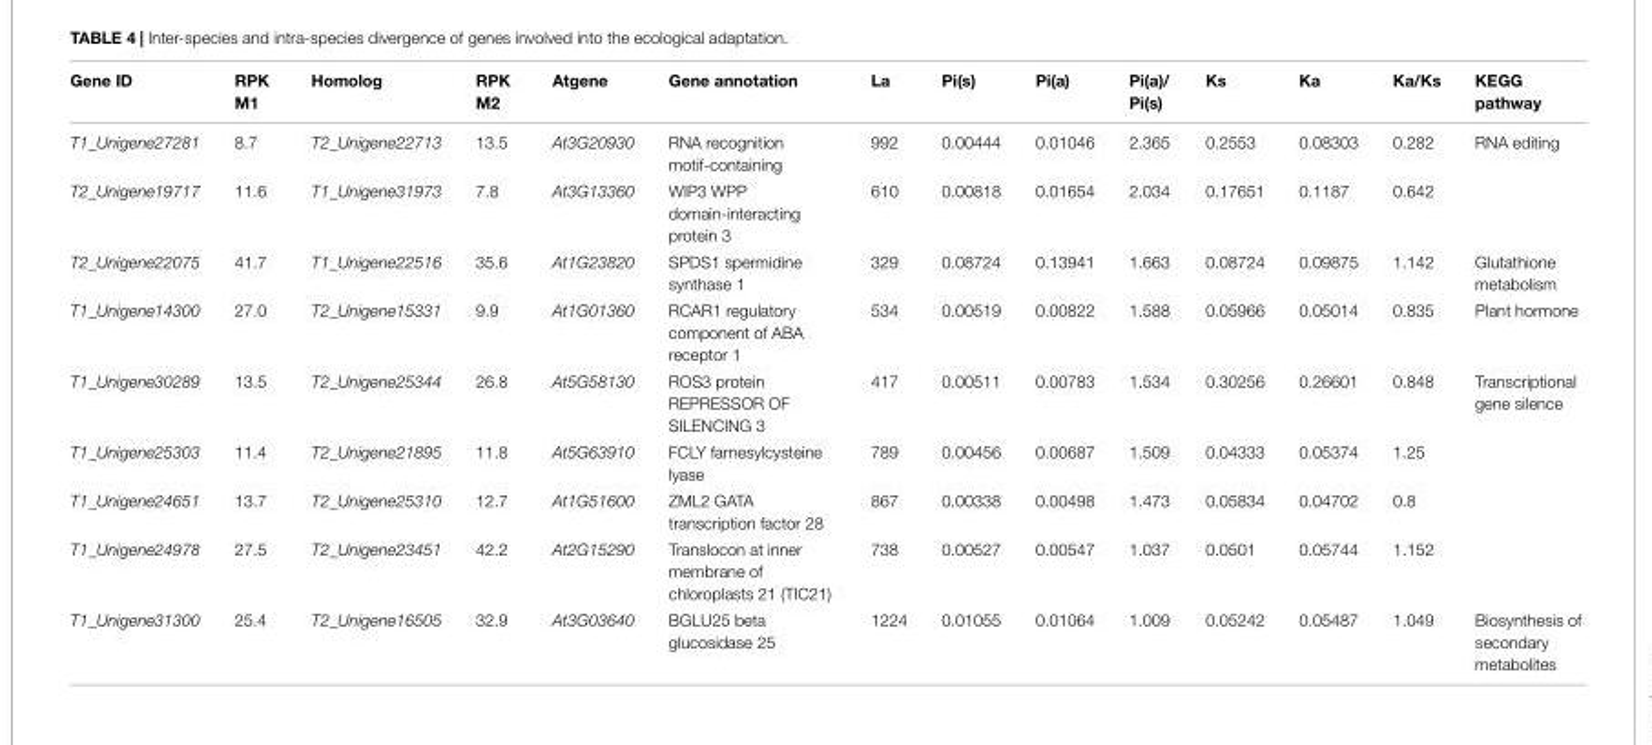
<table><thead><tr><td>Gene ID</td><td>RPK M1</td><td>Homolog</td><td>RPK M2</td><td>Atgene</td><td>Gene annotation</td><td>La</td><td>Pi(s)</td><td>Pi(a)</td><td>Pi(a)/ Pi(s)</td><td>Ks</td><td>Ka</td><td>Ka/Ks</td><td>KEGG pathway</td></tr></thead><tbody><tr><td>T1_Unigene27281</td><td>8.7</td><td>T2_Unigene22713</td><td>13.5</td><td>At3G20930</td><td>RNA recognition motif-containing</td><td>992</td><td>0.00444</td><td>0.01046</td><td>2.365</td><td>0.2553</td><td>0.08303</td><td>0.282</td><td>RNA editing</td></tr><tr><td>T2_Unigene19717</td><td>11.6</td><td>T1_Unigene31973</td><td>7.8</td><td>At3G13360</td><td>WIP3 WPP domain-interacting protein 3</td><td>610</td><td>0.00818</td><td>0.01654</td><td>2.034</td><td>0.17651</td><td>0.1187</td><td>0.642</td><td></td></tr><tr><td>T2_Unigene22075</td><td>41.7</td><td>T1_Unigene22516</td><td>35.6</td><td>At1G23820</td><td>SPDS1 spermidine synthase 1</td><td>329</td><td>0.08724</td><td>0.13941</td><td>1.663</td><td>0.08724</td><td>0.09875</td><td>1.142</td><td>Glutathione metabolism</td></tr><tr><td>T1_Unigene14300</td><td>27.0</td><td>T2_Unigene15331</td><td>9.9</td><td>At1G01360</td><td>RCAR1 regulatory component of ABA receptor 1</td><td>534</td><td>0.00519</td><td>0.00822</td><td>1.588</td><td>0.05966</td><td>0.05014</td><td>0.835</td><td>Plant hormone</td></tr><tr><td>T1_Unigene30289</td><td>13.5</td><td>T2_Unigene25344</td><td>26.8</td><td>At5G58130</td><td>ROS3 protein REPRESSOR OF SILENCING 3</td><td>417</td><td>0.00511</td><td>0.00783</td><td>1.534</td><td>0.30256</td><td>0.26601</td><td>0.848</td><td>Transcriptional gene silence</td></tr><tr><td>T1_Unigene25303</td><td>11.4</td><td>T2_Unigene21895</td><td>11.8</td><td>At5G63910</td><td>FCLY farnesylcysteine lyase</td><td>789</td><td>0.00456</td><td>0.00687</td><td>1.509</td><td>0.04333</td><td>0.05374</td><td>1.25</td><td></td></tr><tr><td>T1_Unigene24651</td><td>13.7</td><td>T2_Unigene25310</td><td>12.7</td><td>At1G51600</td><td>ZML2 GATA transcription factor 28</td><td>867</td><td>0.00338</td><td>0.00498</td><td>1.473</td><td>0.05834</td><td>0.04702</td><td>0.8</td><td></td></tr><tr><td>T1_Unigene24978</td><td>27.5</td><td>T2_Unigene23451</td><td>42.2</td><td>At2G15290</td><td>Translocon at inner membrane of chloroplasts 21 (TIC21)</td><td>738</td><td>0.00527</td><td>0.00547</td><td>1.037</td><td>0.0501</td><td>0.05744</td><td>1.152</td><td></td></tr><tr><td>T1_Unigene31300</td><td>25.4</td><td>T2_Unigene16505</td><td>32.9</td><td>At3G03640</td><td>BGLU25 beta glucosidase 25</td><td>1224</td><td>0.01055</td><td>0.01064</td><td>1.009</td><td>0.05242</td><td>0.05487</td><td>1.049</td><td>Biosynthesis of secondary metabolites</td></tr></tbody></table>